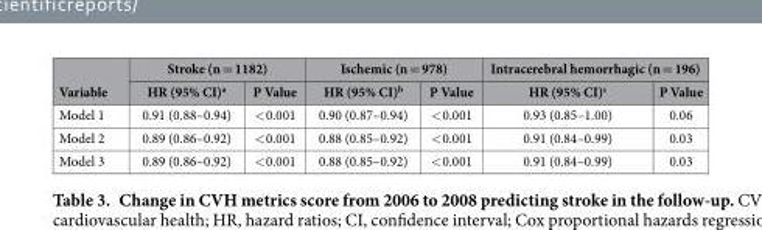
<table><thead><tr><td rowspan="2">Variable</td><td colspan="2">Stroke (n = 1182)</td><td colspan="2">Ischemic (n = 978)</td><td colspan="2">Intracerebral hemorrhagic (n = 196)</td></tr><tr><td>HR (95% CI)<sup>a</sup></td><td>P Value</td><td>HR (95% CI)<sup>b</sup></td><td>P Value</td><td>HR (95% CI)<sup>c</sup></td><td>P Value</td></tr></thead><tbody><tr><td>Model 1</td><td>0.91 (0.88–0.94)</td><td>&lt; 0.001</td><td>0.90 (0.87–0.94)</td><td>&lt; 0.001</td><td>0.93 (0.85–1.00)</td><td>0.06</td></tr><tr><td>Model 2</td><td>0.89 (0.86–0.92)</td><td>&lt; 0.001</td><td>0.88 (0.85–0.92)</td><td>&lt; 0.001</td><td>0.91 (0.84–0.99)</td><td>0.03</td></tr><tr><td>Model 3</td><td>0.89 (0.86–0.92)</td><td>&lt; 0.001</td><td>0.88 (0.85–0.92)</td><td>&lt; 0.001</td><td>0.91 (0.84–0.99)</td><td>0.03</td></tr></tbody></table>